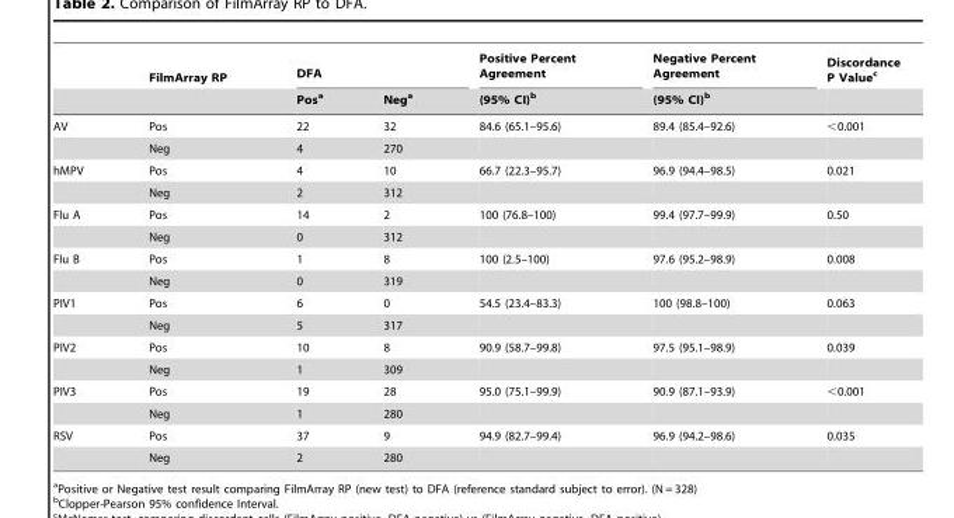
<table><thead><tr><td rowspan="2"></td><td rowspan="2">FilmArray RP</td><td colspan="2">DFA</td><td rowspan="2">Positive Percent Agreement (95% CI)<sup>b</sup></td><td rowspan="2">Negative Percent Agreement (95% CI)<sup>b</sup></td><td rowspan="2">Discordance P Value<sup>c</sup></td></tr><tr><td>Pos<sup>a</sup></td><td>Neg<sup>a</sup></td></tr></thead><tbody><tr><td rowspan="2">AV</td><td>Pos</td><td>22</td><td>32</td><td>84.6 (65.1–95.6)</td><td>89.4 (85.4–92.6)</td><td>&lt;0.001</td></tr><tr><td>Neg</td><td>4</td><td>270</td><td></td><td></td><td></td></tr><tr><td rowspan="2">hMPV</td><td>Pos</td><td>4</td><td>10</td><td>66.7 (22.3–95.7)</td><td>96.9 (94.4–98.5)</td><td>0.021</td></tr><tr><td>Neg</td><td>2</td><td>312</td><td></td><td></td><td></td></tr><tr><td rowspan="2">Flu A</td><td>Pos</td><td>14</td><td>2</td><td>100 (76.8–100)</td><td>99.4 (97.7–99.9)</td><td>0.50</td></tr><tr><td>Neg</td><td>0</td><td>312</td><td></td><td></td><td></td></tr><tr><td rowspan="2">Flu B</td><td>Pos</td><td>1</td><td>8</td><td>100 (2.5–100)</td><td>97.6 (95.2–98.9)</td><td>0.008</td></tr><tr><td>Neg</td><td>0</td><td>319</td><td></td><td></td><td></td></tr><tr><td rowspan="2">PIV1</td><td>Pos</td><td>6</td><td>0</td><td>54.5 (23.4–83.3)</td><td>100 (98.8–100)</td><td>0.063</td></tr><tr><td>Neg</td><td>5</td><td>317</td><td></td><td></td><td></td></tr><tr><td rowspan="2">PIV2</td><td>Pos</td><td>10</td><td>8</td><td>90.9 (58.7–99.8)</td><td>97.5 (95.1–98.9)</td><td>0.039</td></tr><tr><td>Neg</td><td>1</td><td>309</td><td></td><td></td><td></td></tr><tr><td rowspan="2">PIV3</td><td>Pos</td><td>19</td><td>28</td><td>95.0 (75.1–99.9)</td><td>90.9 (87.1–93.9)</td><td>&lt;0.001</td></tr><tr><td>Neg</td><td>1</td><td>280</td><td></td><td></td><td></td></tr><tr><td rowspan="2">RSV</td><td>Pos</td><td>37</td><td>9</td><td>94.9 (82.7–99.4)</td><td>96.9 (94.2–98.6)</td><td>0.035</td></tr><tr><td>Neg</td><td>2</td><td>280</td><td></td><td></td><td></td></tr></tbody></table>